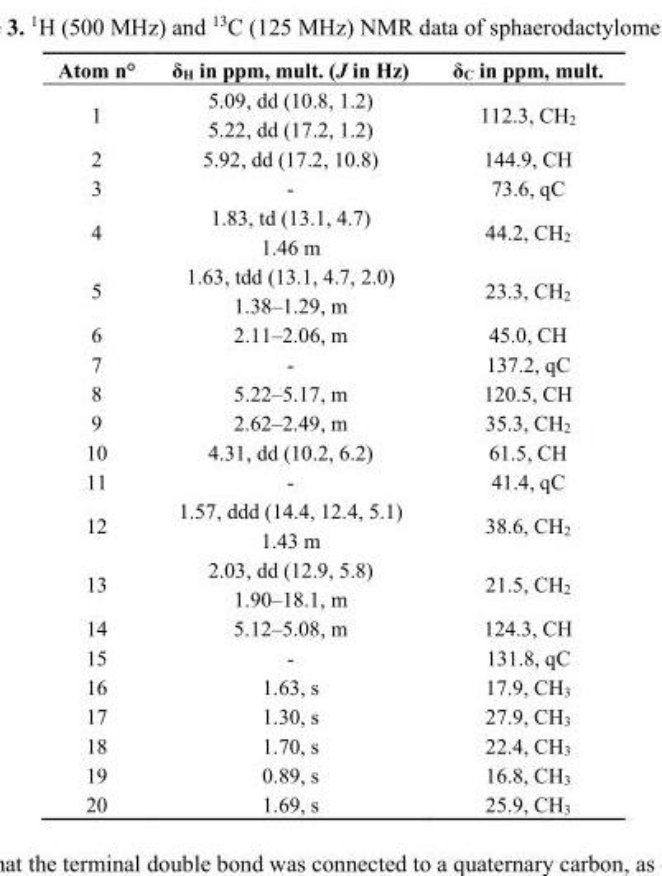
<table><thead><tr><td>Atom n°</td><td>δ<sub>H</sub> in ppm, mult. (J in Hz)</td><td>δ<sub>C</sub> in ppm, mult.</td></tr></thead><tbody><tr><td>1</td><td>5.09, dd (10.8, 1.2) 5.22, dd (17.2, 1.2)</td><td>112.3, CH<sub>2</sub></td></tr><tr><td>2</td><td>5.92, dd (17.2, 10.8)</td><td>144.9, CH</td></tr><tr><td>3</td><td>-</td><td>73.6, qC</td></tr><tr><td>4</td><td>1.83, td (13.1, 4.7) 1.46 m</td><td>44.2, CH<sub>2</sub></td></tr><tr><td>5</td><td>1.63, tdd (13.1, 4.7, 2.0) 1.38–1.29, m</td><td>23.3, CH<sub>2</sub></td></tr><tr><td>6</td><td>2.11–2.06, m</td><td>45.0, CH</td></tr><tr><td>7</td><td>-</td><td>137.2, qC</td></tr><tr><td>8</td><td>5.22–5.17, m</td><td>120.5, CH</td></tr><tr><td>9</td><td>2.62–2.49, m</td><td>35.3, CH<sub>2</sub></td></tr><tr><td>10</td><td>4.31, dd (10.2, 6.2)</td><td>61.5, CH</td></tr><tr><td>11</td><td>-</td><td>41.4, qC</td></tr><tr><td>12</td><td>1.57, ddd (14.4, 12.4, 5.1) 1.43 m</td><td>38.6, CH<sub>2</sub></td></tr><tr><td>13</td><td>2.03, dd (12.9, 5.8) 1.90–18.1, m</td><td>21.5, CH<sub>2</sub></td></tr><tr><td>14</td><td>5.12–5.08, m</td><td>124.3, CH</td></tr><tr><td>15</td><td>-</td><td>131.8, qC</td></tr><tr><td>16</td><td>1.63, s</td><td>17.9, CH<sub>3</sub></td></tr><tr><td>17</td><td>1.30, s</td><td>27.9, CH<sub>3</sub></td></tr><tr><td>18</td><td>1.70, s</td><td>22.4, CH<sub>3</sub></td></tr><tr><td>19</td><td>0.89, s</td><td>16.8, CH<sub>3</sub></td></tr><tr><td>20</td><td>1.69, s</td><td>25.9, CH<sub>3</sub></td></tr></tbody></table>